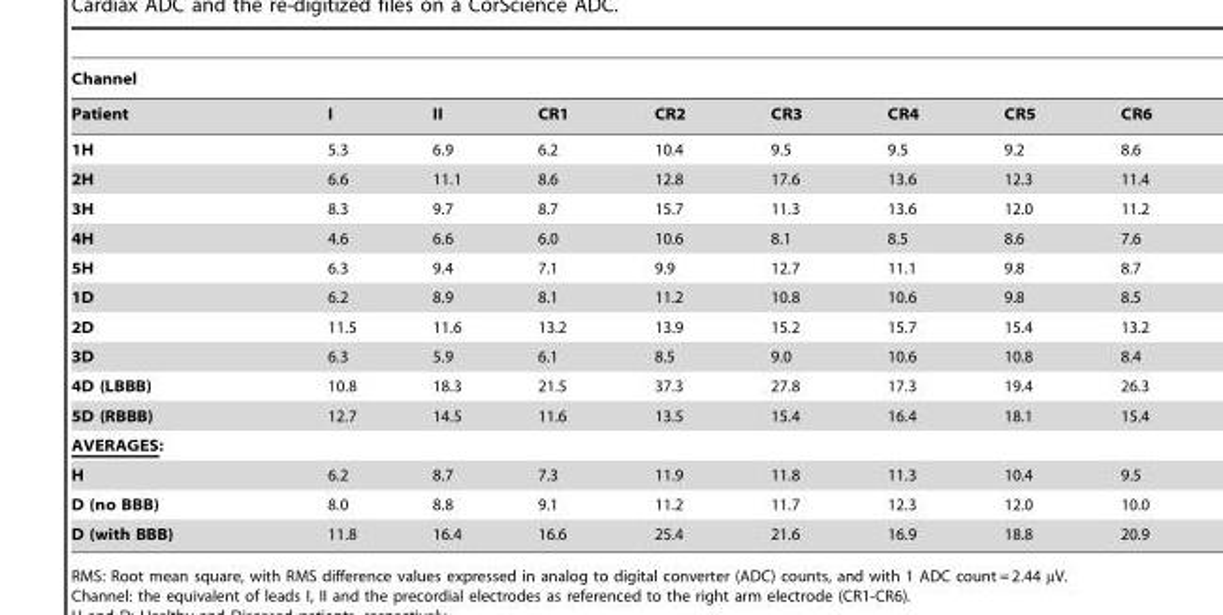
<table><thead><tr><td colspan="9">Channel</td></tr><tr><td>Patient</td><td>I</td><td>II</td><td>CR1</td><td>CR2</td><td>CR3</td><td>CR4</td><td>CR5</td><td>CR6</td></tr></thead><tbody><tr><td>1H</td><td>5.3</td><td>6.9</td><td>6.2</td><td>10.4</td><td>9.5</td><td>9.5</td><td>9.2</td><td>8.6</td></tr><tr><td>2H</td><td>6.6</td><td>11.1</td><td>8.6</td><td>12.8</td><td>17.6</td><td>13.6</td><td>12.3</td><td>11.4</td></tr><tr><td>3H</td><td>8.3</td><td>9.7</td><td>8.7</td><td>15.7</td><td>11.3</td><td>13.6</td><td>12.0</td><td>11.2</td></tr><tr><td>4H</td><td>4.6</td><td>6.6</td><td>6.0</td><td>10.6</td><td>8.1</td><td>8.5</td><td>8.6</td><td>7.6</td></tr><tr><td>5H</td><td>6.3</td><td>9.4</td><td>7.1</td><td>9.9</td><td>12.7</td><td>11.1</td><td>9.8</td><td>8.7</td></tr><tr><td>1D</td><td>6.2</td><td>8.9</td><td>8.1</td><td>11.2</td><td>10.8</td><td>10.6</td><td>9.8</td><td>8.5</td></tr><tr><td>2D</td><td>11.5</td><td>11.6</td><td>13.2</td><td>13.9</td><td>15.2</td><td>15.7</td><td>15.4</td><td>13.2</td></tr><tr><td>3D</td><td>6.3</td><td>5.9</td><td>6.1</td><td>8.5</td><td>9.0</td><td>10.6</td><td>10.8</td><td>8.4</td></tr><tr><td>4D (LBBB)</td><td>10.8</td><td>18.3</td><td>21.5</td><td>37.3</td><td>27.8</td><td>17.3</td><td>19.4</td><td>26.3</td></tr><tr><td>5D (RBBB)</td><td>12.7</td><td>14.5</td><td>11.6</td><td>13.5</td><td>15.4</td><td>16.4</td><td>18.1</td><td>15.4</td></tr><tr><td colspan="9">AVERAGES:</td></tr><tr><td>H</td><td>6.2</td><td>8.7</td><td>7.3</td><td>11.9</td><td>11.8</td><td>11.3</td><td>10.4</td><td>9.5</td></tr><tr><td>D (no BBB)</td><td>8.0</td><td>8.8</td><td>9.1</td><td>11.2</td><td>11.7</td><td>12.3</td><td>12.0</td><td>10.0</td></tr><tr><td>D (with BBB)</td><td>11.8</td><td>16.4</td><td>16.6</td><td>25.4</td><td>21.6</td><td>16.9</td><td>18.8</td><td>20.9</td></tr></tbody></table>